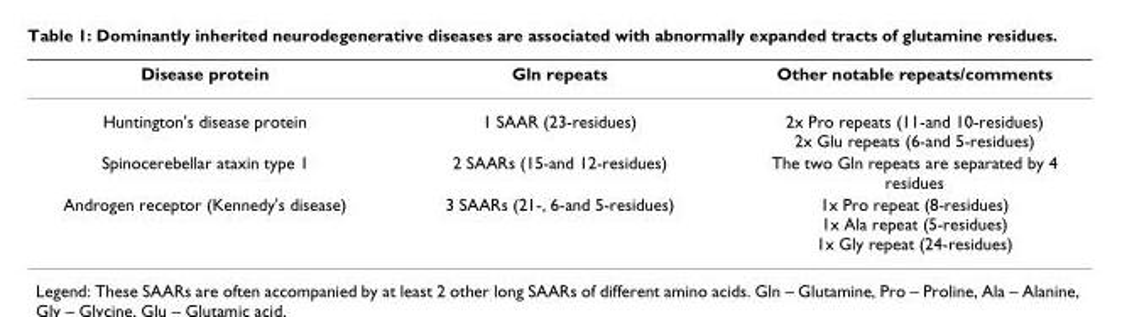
<table><thead><tr><td>Disease protein</td><td>Gln repeats</td><td>Other notable repeats/comments</td></tr></thead><tbody><tr><td>Huntington&#x27;s disease protein</td><td>1 SAAR (23-residues)</td><td>2x Pro repeats (11-and 10-residues) 2x Glu repeats (6-and 5-residues)</td></tr><tr><td>Spinocerebellar ataxin type 1</td><td>2 SAARs (15-and 12-residues)</td><td>The two Gln repeats are separated by 4 residues</td></tr><tr><td>Androgen receptor (Kennedy&#x27;s disease)</td><td>3 SAARs (21-, 6-and 5-residues)</td><td>1x Pro repeat (8-residues) 1x Ala repeat (5-residues) 1x Gly repeat (24-residues)</td></tr></tbody></table>